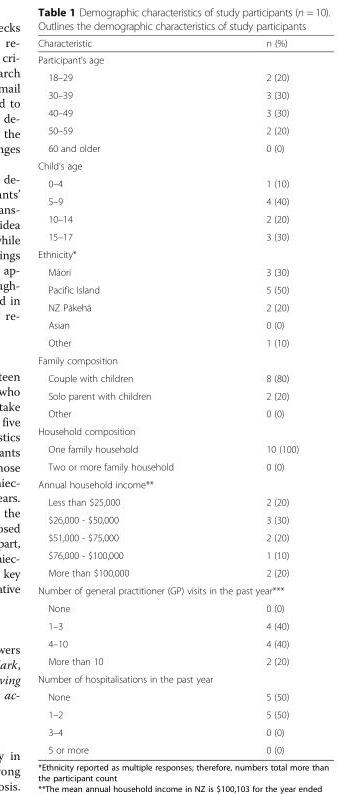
<table><thead><tr><td>Characteristic</td><td>n (%)</td></tr></thead><tbody><tr><td colspan="2">Participant’s age</td></tr><tr><td>18–29</td><td>2 (20)</td></tr><tr><td>30–39</td><td>3 (30)</td></tr><tr><td>40–49</td><td>3 (30)</td></tr><tr><td>50–59</td><td>2 (20)</td></tr><tr><td>60 and older</td><td>0 (0)</td></tr><tr><td colspan="2">Child’s age</td></tr><tr><td>0–4</td><td>1 (10)</td></tr><tr><td>5–9</td><td>4 (40)</td></tr><tr><td>10–14</td><td>2 (20)</td></tr><tr><td>15–17</td><td>3 (30)</td></tr><tr><td colspan="2">Ethnicity*</td></tr><tr><td>Māori</td><td>3 (30)</td></tr><tr><td>Pacific Island</td><td>5 (50)</td></tr><tr><td>NZ Pākehā</td><td>2 (20)</td></tr><tr><td>Asian</td><td>0 (0)</td></tr><tr><td>Other</td><td>1 (10)</td></tr><tr><td colspan="2">Family composition</td></tr><tr><td>Couple with children</td><td>8 (80)</td></tr><tr><td>Solo parent with children</td><td>2 (20)</td></tr><tr><td>Other</td><td>0 (0)</td></tr><tr><td colspan="2">Household composition</td></tr><tr><td>One family household</td><td>10 (100)</td></tr><tr><td>Two or more family household</td><td>0 (0)</td></tr><tr><td colspan="2">Annual household income**</td></tr><tr><td>Less than $25,000</td><td>2 (20)</td></tr><tr><td>$26,000 - $50,000</td><td>3 (30)</td></tr><tr><td>$51,000 - $75,000</td><td>2 (20)</td></tr><tr><td>$76,000 - $100,000</td><td>1 (10)</td></tr><tr><td>More than $100,000</td><td>2 (20)</td></tr><tr><td colspan="2">Number of general practitioner (GP) visits in the past year***</td></tr><tr><td>None</td><td>0 (0)</td></tr><tr><td>1–3</td><td>4 (40)</td></tr><tr><td>4–10</td><td>4 (40)</td></tr><tr><td>More than 10</td><td>2 (20)</td></tr><tr><td colspan="2">Number of hospitalisations in the past year</td></tr><tr><td>None</td><td>5 (50)</td></tr><tr><td>1–2</td><td>5 (50)</td></tr><tr><td>3–4</td><td>0 (0)</td></tr><tr><td>5 or more</td><td>0 (0)</td></tr></tbody></table>